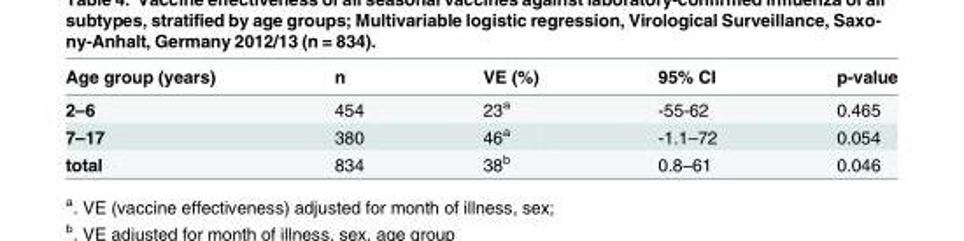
<table><thead><tr><td>Age group (years)</td><td>n</td><td>VE (%)</td><td>95% CI</td><td>p-value</td></tr></thead><tbody><tr><td>2–6</td><td>454</td><td>23<sup>a</sup></td><td>-55-62</td><td>0.465</td></tr><tr><td>7–17</td><td>380</td><td>46<sup>a</sup></td><td>-1.1–72</td><td>0.054</td></tr><tr><td>total</td><td>834</td><td>38<sup>b</sup></td><td>0.8–61</td><td>0.046</td></tr></tbody></table>